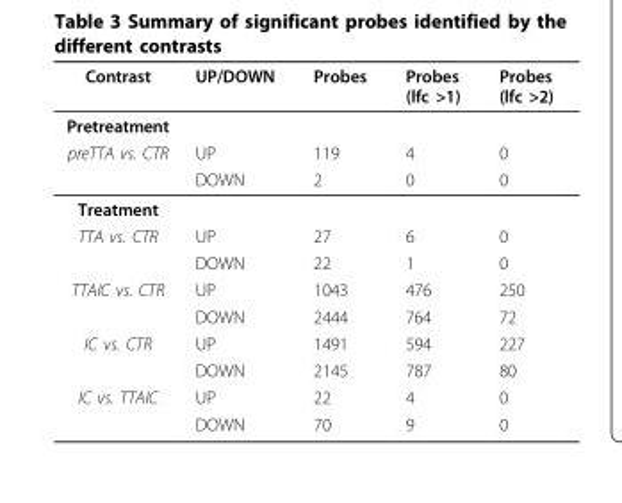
<table><thead><tr><td>Contrast</td><td>UP/DOWN</td><td>Probes</td><td>Probes (lfc &gt;1)</td><td>Probes (lfc &gt;2)</td></tr></thead><tbody><tr><td colspan="5">Pretreatment</td></tr><tr><td rowspan="2">preTTA vs. CTR</td><td>UP</td><td>119</td><td>4</td><td>0</td></tr><tr><td>DOWN</td><td>2</td><td>0</td><td>0</td></tr><tr><td colspan="5">Treatment</td></tr><tr><td rowspan="2">TTA vs. CTR</td><td>UP</td><td>27</td><td>6</td><td>0</td></tr><tr><td>DOWN</td><td>22</td><td>1</td><td>0</td></tr><tr><td rowspan="2">TTAIC vs. CTR</td><td>UP</td><td>1043</td><td>476</td><td>250</td></tr><tr><td>DOWN</td><td>2444</td><td>764</td><td>72</td></tr><tr><td rowspan="2">IC vs. CTR</td><td>UP</td><td>1491</td><td>594</td><td>227</td></tr><tr><td>DOWN</td><td>2145</td><td>787</td><td>80</td></tr><tr><td rowspan="2">IC vs. TTAIC</td><td>UP</td><td>22</td><td>4</td><td>0</td></tr><tr><td>DOWN</td><td>70</td><td>9</td><td>0</td></tr></tbody></table>